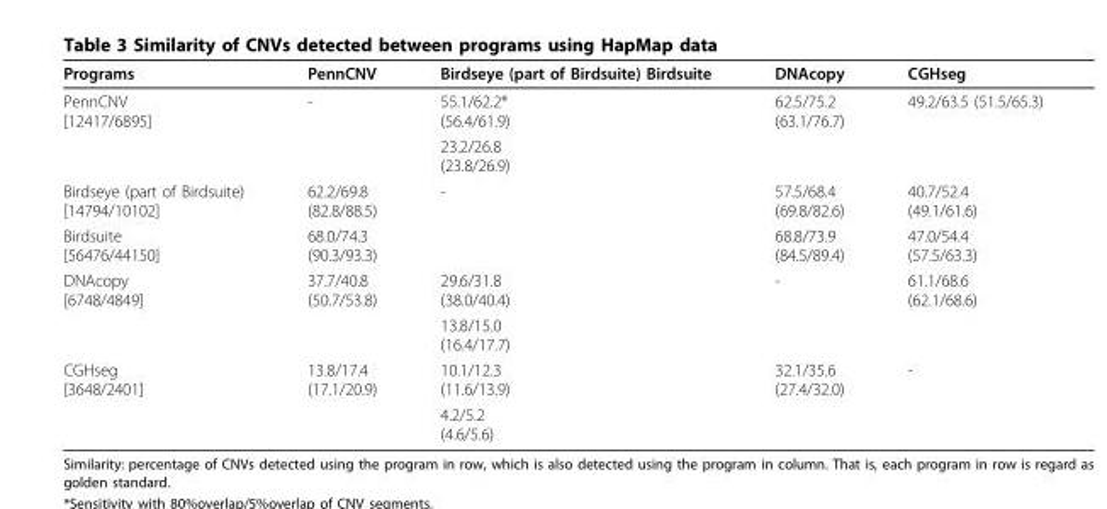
<table><thead><tr><td>Programs</td><td>PennCNV</td><td>Birdseye (part of Birdsuite) Birdsuite</td><td>DNAcopy</td><td>CGHseg</td></tr></thead><tbody><tr><td rowspan="2">PennCNV [12417/6895]</td><td>-</td><td>55.1/62.2* (56.4/61.9)</td><td>62.5/75.2 (63.1/76.7)</td><td>49.2/63.5 (51.5/65.3)</td></tr><tr><td></td><td>23.2/26.8 (23.8/26.9)</td><td></td><td></td></tr><tr><td>Birdseye (part of Birdsuite) [14794/10102]</td><td>62.2/69.8 (82.8/88.5)</td><td>-</td><td>57.5/68.4 (69.8/82.6)</td><td>40.7/52.4 (49.1/61.6)</td></tr><tr><td>Birdsuite [56476/44150]</td><td>68.0/74.3 (90.3/93.3)</td><td></td><td>68.8/73.9 (84.5/89.4)</td><td>47.0/54.4 (57.5/63.3)</td></tr><tr><td rowspan="2">DNAcopy [6748/4849]</td><td>37.7/40.8 (50.7/53.8)</td><td>29.6/31.8 (38.0/40.4)</td><td>-</td><td>61.1/68.6 (62.1/68.6)</td></tr><tr><td></td><td>13.8/15.0 (16.4/17.7)</td><td></td><td></td></tr><tr><td rowspan="2">CGHseg [3648/2401]</td><td>13.8/17.4 (17.1/20.9)</td><td>10.1/12.3 (11.6/13.9)</td><td>32.1/35.6 (27.4/32.0)</td><td>-</td></tr><tr><td></td><td>4.2/5.2 (4.6/5.6)</td><td></td><td></td></tr></tbody></table>